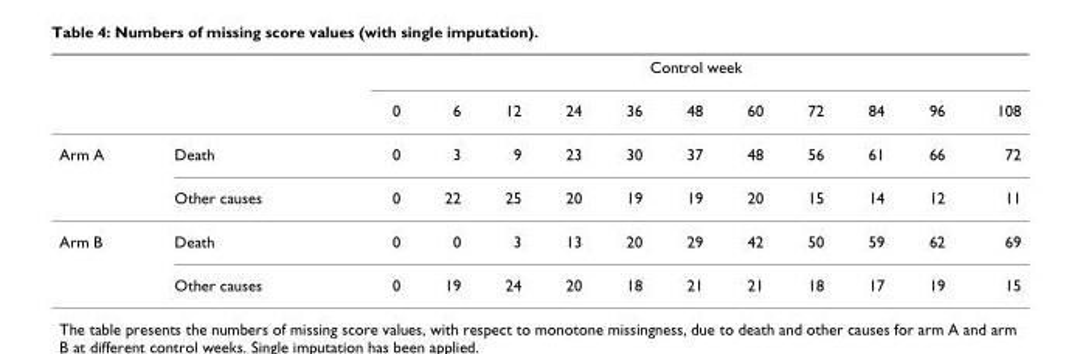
<table><thead><tr><td rowspan="2"></td><td rowspan="2"></td><td colspan="11">Control week</td></tr><tr><td>0</td><td>6</td><td>12</td><td>24</td><td>36</td><td>48</td><td>60</td><td>72</td><td>84</td><td>96</td><td>108</td></tr></thead><tbody><tr><td rowspan="2">Arm A</td><td>Death</td><td>0</td><td>3</td><td>9</td><td>23</td><td>30</td><td>37</td><td>48</td><td>56</td><td>61</td><td>66</td><td>72</td></tr><tr><td>Other causes</td><td>0</td><td>22</td><td>25</td><td>20</td><td>19</td><td>19</td><td>20</td><td>15</td><td>14</td><td>12</td><td>11</td></tr><tr><td rowspan="2">Arm B</td><td>Death</td><td>0</td><td>0</td><td>3</td><td>13</td><td>20</td><td>29</td><td>42</td><td>50</td><td>59</td><td>62</td><td>69</td></tr><tr><td>Other causes</td><td>0</td><td>19</td><td>24</td><td>20</td><td>18</td><td>21</td><td>21</td><td>18</td><td>17</td><td>19</td><td>15</td></tr></tbody></table>